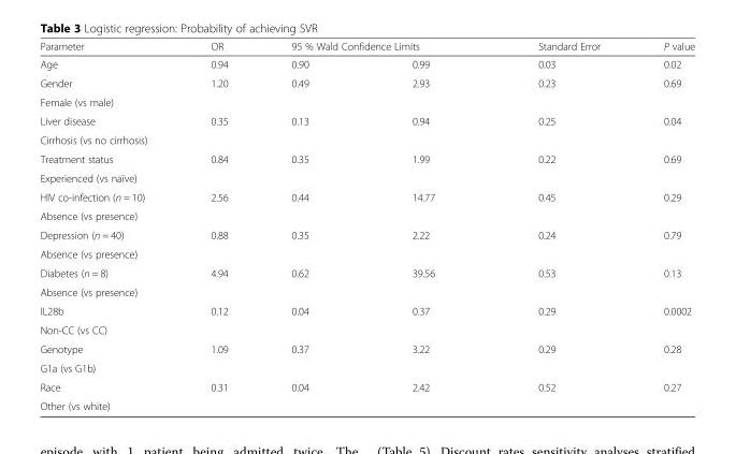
<table><thead><tr><td rowspan="2">Parameter Age</td><td rowspan="2">OR 0.94</td><td colspan="2">95 % Wald Confidence Limits</td><td rowspan="2">Standard Error 0.03</td><td rowspan="2">P value 0.02</td></tr><tr><td>0.90</td><td>0.99</td></tr></thead><tbody><tr><td>Gender</td><td rowspan="2">1.20</td><td rowspan="2">0.49</td><td rowspan="2">2.93</td><td rowspan="2">0.23</td><td rowspan="2">0.69</td></tr><tr><td>Female (vs male)</td></tr><tr><td>Liver disease</td><td rowspan="2">0.35</td><td rowspan="2">0.13</td><td rowspan="2">0.94</td><td rowspan="2">0.25</td><td rowspan="2">0.04</td></tr><tr><td>Cirrhosis (vs no cirrhosis)</td></tr><tr><td>Treatment status</td><td rowspan="2">0.84</td><td rowspan="2">0.35</td><td rowspan="2">1.99</td><td rowspan="2">0.22</td><td rowspan="2">0.69</td></tr><tr><td>Experienced (vs naïve)</td></tr><tr><td>HIV co-infection (n = 10)</td><td rowspan="2">2.56</td><td rowspan="2">0.44</td><td rowspan="2">14.77</td><td rowspan="2">0.45</td><td rowspan="2">0.29</td></tr><tr><td>Absence (vs presence)</td></tr><tr><td>Depression (n = 40)</td><td rowspan="2">0.88</td><td rowspan="2">0.35</td><td rowspan="2">2.22</td><td rowspan="2">0.24</td><td rowspan="2">0.79</td></tr><tr><td>Absence (vs presence)</td></tr><tr><td>Diabetes (n = 8)</td><td rowspan="2">4.94</td><td rowspan="2">0.62</td><td rowspan="2">39.56</td><td rowspan="2">0.53</td><td rowspan="2">0.13</td></tr><tr><td>Absence (vs presence)</td></tr><tr><td>IL28b</td><td rowspan="2">0.12</td><td rowspan="2">0.04</td><td rowspan="2">0.37</td><td rowspan="2">0.29</td><td rowspan="2">0.0002</td></tr><tr><td>Non-CC (vs CC)</td></tr><tr><td>Genotype</td><td rowspan="2">1.09</td><td rowspan="2">0.37</td><td rowspan="2">3.22</td><td rowspan="2">0.29</td><td rowspan="2">0.28</td></tr><tr><td>G1a (vs G1b)</td></tr><tr><td>Race</td><td rowspan="2">0.31</td><td rowspan="2">0.04</td><td rowspan="2">2.42</td><td rowspan="2">0.52</td><td rowspan="2">0.27</td></tr><tr><td>Other (vs white)</td></tr></tbody></table>